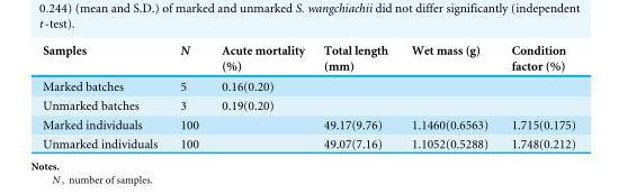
<table><thead><tr><td>Samples</td><td>N</td><td>Acute mortality (%)</td><td>Total length (mm)</td><td>Wet mass (g)</td><td>Condition factor (%)</td></tr></thead><tbody><tr><td>Marked batches</td><td>5</td><td>0.16(0.20)</td><td></td><td></td><td></td></tr><tr><td>Unmarked batches</td><td>3</td><td>0.19(0.20)</td><td></td><td></td><td></td></tr><tr><td>Marked individuals</td><td>100</td><td></td><td>49.17(9.76)</td><td>1.1460(0.6563)</td><td>1.715(0.175)</td></tr><tr><td>Unmarked individuals</td><td>100</td><td></td><td>49.07(7.16)</td><td>1.1052(0.5288)</td><td>1.748(0.212)</td></tr></tbody></table>